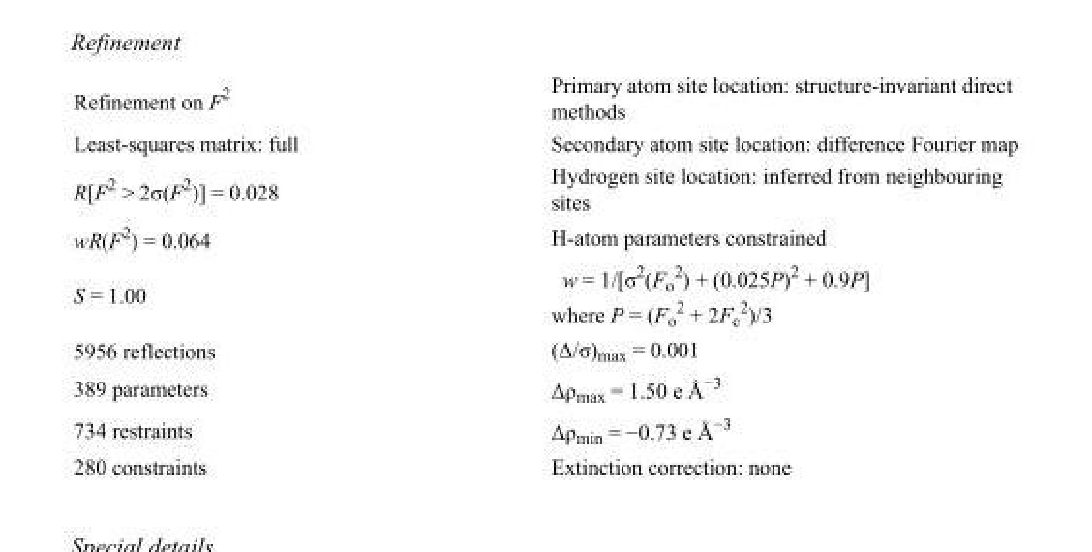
<table><tbody><tr><td>Refinement on F<sup>2</sup></td><td>Primary atom site location: structure-invariant direct methods</td></tr><tr><td>Least-squares matrix: full</td><td>Secondary atom site location: difference Fourier map</td></tr><tr><td>R[F<sup>2</sup> &gt; 2σ(F<sup>2</sup>)] = 0.028</td><td>Hydrogen site location: inferred from neighbouring sites</td></tr><tr><td>wR(F<sup>2</sup>) = 0.064</td><td>H-atom parameters constrained</td></tr><tr><td>S = 1.00</td><td>w = 1/[σ<sup>2</sup>(F<sub>o</sub> <sup>2</sup>) + (0.025P)<sup>2</sup> + 0.9P] where P = (F<sub>o</sub> <sup>2</sup> + 2F<sub>c</sub> <sup>2</sup>)/3</td></tr><tr><td>5956 reflections</td><td>(Δ/σ)<sub>max</sub> = 0.001</td></tr><tr><td>389 parameters</td><td>Δρ<sub>max</sub> = 1.50 e Å<sup>−3</sup></td></tr><tr><td>734 restraints</td><td>Δρ<sub>min</sub> = −0.73 e Å<sup>−3</sup></td></tr><tr><td>280 constraints</td><td>Extinction correction: none</td></tr></tbody></table>